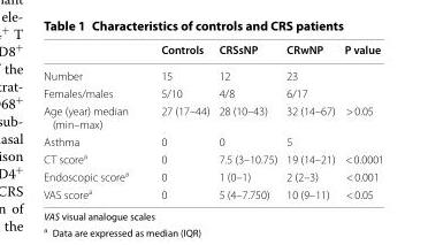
<table><thead><tr><td></td><td>Controls</td><td>CRSsNP</td><td>CRwNP</td><td>P value</td></tr></thead><tbody><tr><td>Number</td><td>15</td><td>12</td><td>23</td><td></td></tr><tr><td>Females/males</td><td>5/10</td><td>4/8</td><td>6/17</td><td></td></tr><tr><td>Age (year) median (min–max)</td><td>27 (17–44)</td><td>28 (10–43)</td><td>32 (14–67)</td><td>&gt; 0.05</td></tr><tr><td>Asthma</td><td>0</td><td>0</td><td>5</td><td></td></tr><tr><td>CT score<sup>a</sup></td><td>0</td><td>7.5 (3–10.75)</td><td>19 (14–21)</td><td>&lt; 0.0001</td></tr><tr><td>Endoscopic score<sup>a</sup></td><td>0</td><td>1 (0–1)</td><td>2 (2–3)</td><td>&lt; 0.001</td></tr><tr><td>VAS score<sup>a</sup></td><td>0</td><td>5 (4–7.750)</td><td>10 (9–11)</td><td>&lt; 0.05</td></tr></tbody></table>